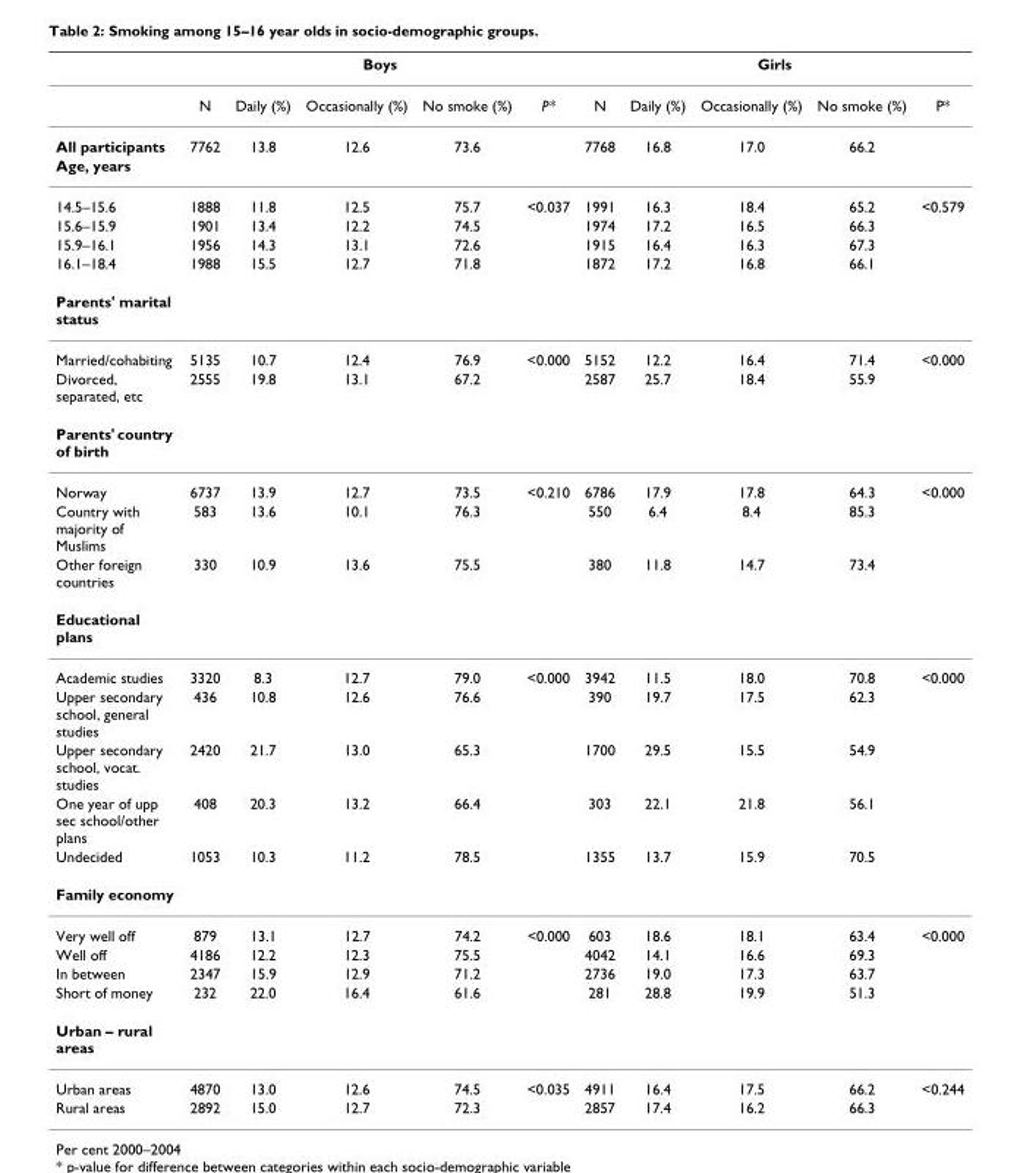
<table><thead><tr><td rowspan="2"></td><td colspan="5">Boys</td><td colspan="5">Girls</td></tr><tr><td>N</td><td>Daily (%)</td><td>Occasionally (%)</td><td>No smoke (%)</td><td>P*</td><td>N</td><td>Daily (%)</td><td>Occasionally (%)</td><td>No smoke (%)</td><td>P*</td></tr></thead><tbody><tr><td>All participants</td><td>7762</td><td>13.8</td><td>12.6</td><td>73.6</td><td></td><td>7768</td><td>16.8</td><td>17.0</td><td>66.2</td><td></td></tr><tr><td colspan="11">Age, years</td></tr><tr><td>14.5–15.6</td><td>1888</td><td>11.8</td><td>12.5</td><td>75.7</td><td>&lt;0.037</td><td>1991</td><td>16.3</td><td>18.4</td><td>65.2</td><td>&lt;0.579</td></tr><tr><td>15.6–15.9</td><td>1901</td><td>13.4</td><td>12.2</td><td>74.5</td><td></td><td>1974</td><td>17.2</td><td>16.5</td><td>66.3</td><td></td></tr><tr><td>15.9–16.1</td><td>1956</td><td>14.3</td><td>13.1</td><td>72.6</td><td></td><td>1915</td><td>16.4</td><td>16.3</td><td>67.3</td><td></td></tr><tr><td>16.1–18.4</td><td>1988</td><td>15.5</td><td>12.7</td><td>71.8</td><td></td><td>1872</td><td>17.2</td><td>16.8</td><td>66.1</td><td></td></tr><tr><td colspan="11">Parents&#x27; marital status</td></tr><tr><td>Married/cohabiting</td><td>5135</td><td>10.7</td><td>12.4</td><td>76.9</td><td>&lt;0.000</td><td>5152</td><td>12.2</td><td>16.4</td><td>71.4</td><td>&lt;0.000</td></tr><tr><td>Divorced, separated, etc</td><td>2555</td><td>19.8</td><td>13.1</td><td>67.2</td><td></td><td>2587</td><td>25.7</td><td>18.4</td><td>55.9</td><td></td></tr><tr><td colspan="11">Parents&#x27; country of birth</td></tr><tr><td>Norway</td><td>6737</td><td>13.9</td><td>12.7</td><td>73.5</td><td>&lt;0.210</td><td>6786</td><td>17.9</td><td>17.8</td><td>64.3</td><td>&lt;0.000</td></tr><tr><td>Country with majority of Muslims</td><td>583</td><td>13.6</td><td>10.1</td><td>76.3</td><td></td><td>550</td><td>6.4</td><td>8.4</td><td>85.3</td><td></td></tr><tr><td>Other foreign countries</td><td>330</td><td>10.9</td><td>13.6</td><td>75.5</td><td></td><td>380</td><td>11.8</td><td>14.7</td><td>73.4</td><td></td></tr><tr><td colspan="11">Educational plans</td></tr><tr><td>Academic studies</td><td>3320</td><td>8.3</td><td>12.7</td><td>79.0</td><td>&lt;0.000</td><td>3942</td><td>11.5</td><td>18.0</td><td>70.8</td><td>&lt;0.000</td></tr><tr><td>Upper secondary school, general studies</td><td>436</td><td>10.8</td><td>12.6</td><td>76.6</td><td></td><td>390</td><td>19.7</td><td>17.5</td><td>62.3</td><td></td></tr><tr><td>Upper secondary school, vocat. studies</td><td>2420</td><td>21.7</td><td>13.0</td><td>65.3</td><td></td><td>1700</td><td>29.5</td><td>15.5</td><td>54.9</td><td></td></tr><tr><td>One year of upp sec school/other plans</td><td>408</td><td>20.3</td><td>13.2</td><td>66.4</td><td></td><td>303</td><td>22.1</td><td>21.8</td><td>56.1</td><td></td></tr><tr><td>Undecided</td><td>1053</td><td>10.3</td><td>11.2</td><td>78.5</td><td></td><td>1355</td><td>13.7</td><td>15.9</td><td>70.5</td><td></td></tr><tr><td colspan="11">Family economy</td></tr><tr><td>Very well off</td><td>879</td><td>13.1</td><td>12.7</td><td>74.2</td><td>&lt;0.000</td><td>603</td><td>18.6</td><td>18.1</td><td>63.4</td><td>&lt;0.000</td></tr><tr><td>Well off</td><td>4186</td><td>12.2</td><td>12.3</td><td>75.5</td><td></td><td>4042</td><td>14.1</td><td>16.6</td><td>69.3</td><td></td></tr><tr><td>In between</td><td>2347</td><td>15.9</td><td>12.9</td><td>71.2</td><td></td><td>2736</td><td>19.0</td><td>17.3</td><td>63.7</td><td></td></tr><tr><td>Short of money</td><td>232</td><td>22.0</td><td>16.4</td><td>61.6</td><td></td><td>281</td><td>28.8</td><td>19.9</td><td>51.3</td><td></td></tr><tr><td colspan="11">Urban – rural areas</td></tr><tr><td>Urban areas</td><td>4870</td><td>13.0</td><td>12.6</td><td>74.5</td><td>&lt;0.035</td><td>4911</td><td>16.4</td><td>17.5</td><td>66.2</td><td>&lt;0.244</td></tr><tr><td>Rural areas</td><td>2892</td><td>15.0</td><td>12.7</td><td>72.3</td><td></td><td>2857</td><td>17.4</td><td>16.2</td><td>66.3</td><td></td></tr></tbody></table>